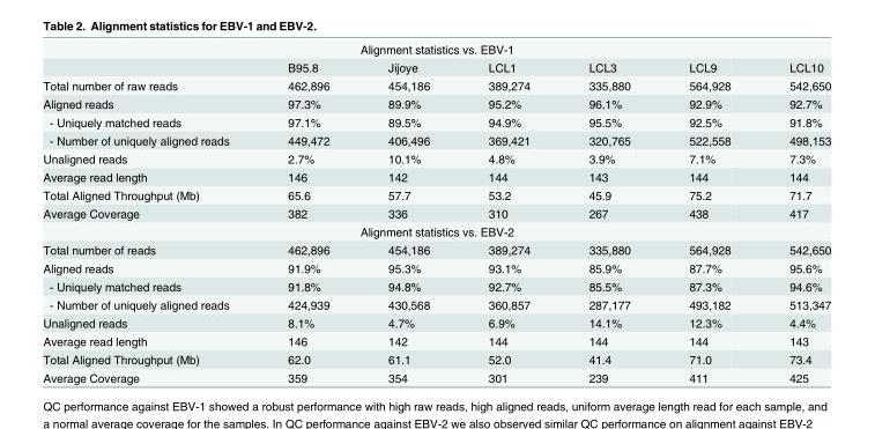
<table><tbody><tr><td colspan="7">Alignment statistics vs. EBV-1</td></tr><tr><td></td><td>B95.8</td><td>Jijoye</td><td>LCL1</td><td>LCL3</td><td>LCL9</td><td>LCL10</td></tr><tr><td>Total number of raw reads</td><td>462,896</td><td>454,186</td><td>389,274</td><td>335,880</td><td>564,928</td><td>542,650</td></tr><tr><td>Aligned reads</td><td>97.3%</td><td>89.9%</td><td>95.2%</td><td>96.1%</td><td>92.9%</td><td>92.7%</td></tr><tr><td>- Uniquely matched reads</td><td>97.1%</td><td>89.5%</td><td>94.9%</td><td>95.5%</td><td>92.5%</td><td>91.8%</td></tr><tr><td>- Number of uniquely aligned reads</td><td>449,472</td><td>406,496</td><td>369,421</td><td>320,765</td><td>522,558</td><td>498,153</td></tr><tr><td>Unaligned reads</td><td>2.7%</td><td>10.1%</td><td>4.8%</td><td>3.9%</td><td>7.1%</td><td>7.3%</td></tr><tr><td>Average read length</td><td>146</td><td>142</td><td>144</td><td>143</td><td>144</td><td>144</td></tr><tr><td>Total Aligned Throughput (Mb)</td><td>65.6</td><td>57.7</td><td>53.2</td><td>45.9</td><td>75.2</td><td>71.7</td></tr><tr><td>Average Coverage</td><td>382</td><td>336</td><td>310</td><td>267</td><td>438</td><td>417</td></tr><tr><td colspan="7">Alignment statistics vs. EBV-2</td></tr><tr><td>Total number of reads</td><td>462,896</td><td>454,186</td><td>389,274</td><td>335,880</td><td>564,928</td><td>542,650</td></tr><tr><td>Aligned reads</td><td>91.9%</td><td>95.3%</td><td>93.1%</td><td>85.9%</td><td>87.7%</td><td>95.6%</td></tr><tr><td>- Uniquely matched reads</td><td>91.8%</td><td>94.8%</td><td>92.7%</td><td>85.5%</td><td>87.3%</td><td>94.6%</td></tr><tr><td>- Number of uniquely aligned reads</td><td>424,939</td><td>430,568</td><td>360,857</td><td>287,177</td><td>493,182</td><td>513,347</td></tr><tr><td>Unaligned reads</td><td>8.1%</td><td>4.7%</td><td>6.9%</td><td>14.1%</td><td>12.3%</td><td>4.4%</td></tr><tr><td>Average read length</td><td>146</td><td>142</td><td>144</td><td>144</td><td>144</td><td>143</td></tr><tr><td>Total Aligned Throughput (Mb)</td><td>62.0</td><td>61.1</td><td>52.0</td><td>41.4</td><td>71.0</td><td>73.4</td></tr><tr><td>Average Coverage</td><td>359</td><td>354</td><td>301</td><td>239</td><td>411</td><td>425</td></tr></tbody></table>